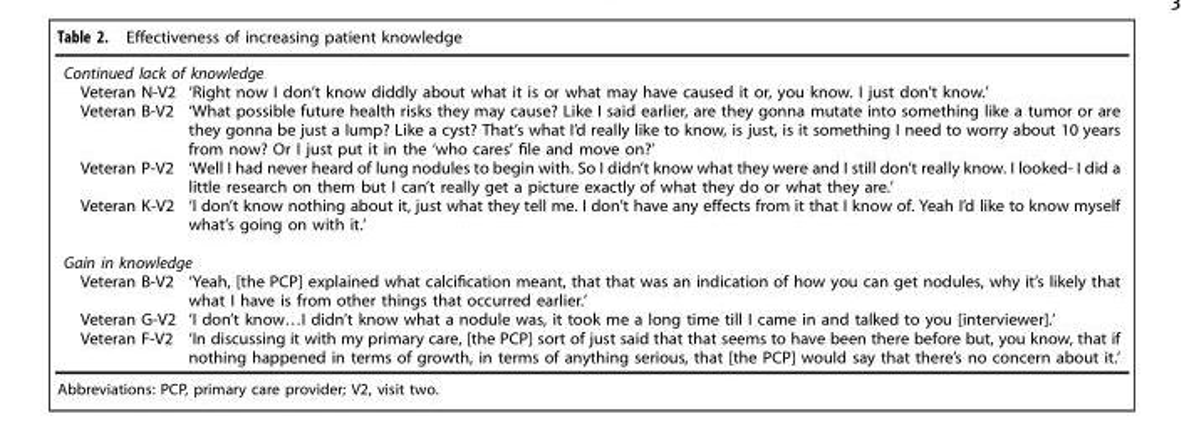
<table><tbody><tr><td colspan="2">Continued lack of knowledge</td></tr><tr><td>Veteran N-V2</td><td>‘Right now I don’t know diddly about what it is or what may have caused it or, you know. I just don’t know.’</td></tr><tr><td>Veteran B-V2</td><td>‘What possible future health risks they may cause? Like I said earlier, are they gonna mutate into something like a tumor or are they gonna be just a lump? Like a cyst? That’s what I’d really like to know, is just, is it something I need to worry about 10 years from now? Or I just put it in the ‘who cares’ file and move on?’</td></tr><tr><td>Veteran P-V2</td><td>‘Well I had never heard of lung nodules to begin with. So I didn’t know what they were and I still don’t really know. I looked- I did a little research on them but I can’t really get a picture exactly of what they do or what they are.’</td></tr><tr><td>Veteran K-V2</td><td>‘I don’t know nothing about it, just what they tell me. I don’t have any effects from it that I know of. Yeah I’d like to know myself what’s going on with it.’</td></tr><tr><td colspan="2">Gain in knowledge</td></tr><tr><td>Veteran B-V2</td><td>‘Yeah, [the PCP] explained what calcification meant, that that was an indication of how you can get nodules, why it’s likely that what I have is from other things that occurred earlier.’</td></tr><tr><td>Veteran G-V2</td><td>‘I don’t know…I didn’t know what a nodule was, it took me a long time till I came in and talked to you [interviewer].’</td></tr><tr><td>Veteran F-V2</td><td>‘In discussing it with my primary care, [the PCP] sort of just said that that seems to have been there before but, you know, that if nothing happened in terms of growth, in terms of anything serious, that [the PCP] would say that there’s no concern about it.’</td></tr></tbody></table>